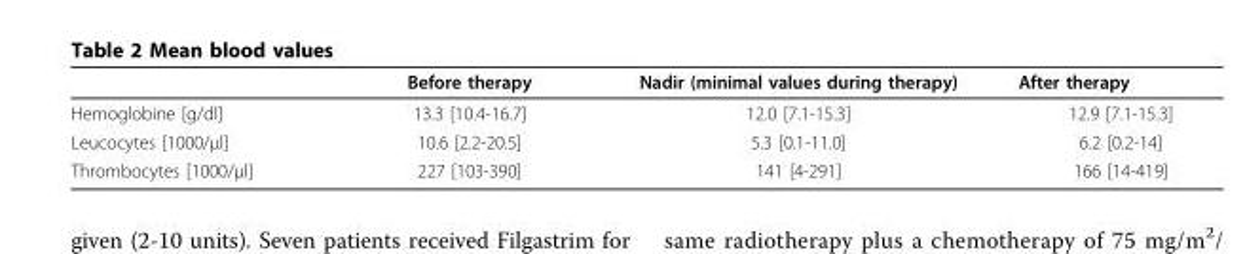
<table><thead><tr><td></td><td>Before therapy</td><td>Nadir (minimal values during therapy)</td><td>After therapy</td></tr></thead><tbody><tr><td>Hemoglobine [g/dl]</td><td>13.3 [10.4-16.7]</td><td>12.0 [7.1-15.3]</td><td>12.9 [7.1-15.3]</td></tr><tr><td>Leucocytes [1000/μl]</td><td>10.6 [2.2-20.5]</td><td>5.3 [0.1-11.0]</td><td>6.2 [0.2-14]</td></tr><tr><td>Thrombocytes [1000/μl]</td><td>227 [103-390]</td><td>141 [4-291]</td><td>166 [14-419]</td></tr></tbody></table>